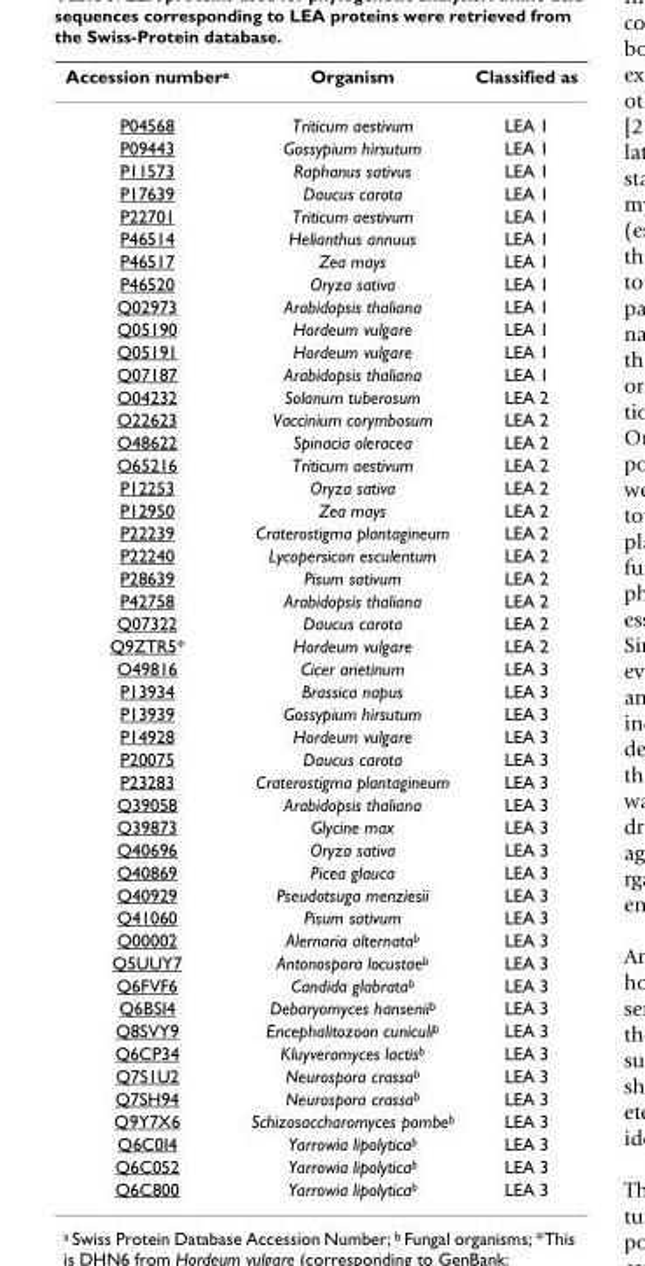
<table><thead><tr><td>Accession numbera</td><td>Organism</td><td>Classified as</td></tr></thead><tbody><tr><td>P04568</td><td>Triticum aestivum</td><td>LEA 1</td></tr><tr><td>P09443</td><td>Gossypium hirsutum</td><td>LEA 1</td></tr><tr><td>P11573</td><td>Raphanus sativus</td><td>LEA 1</td></tr><tr><td>P17639</td><td>Daucus carota</td><td>LEA 1</td></tr><tr><td>P22701</td><td>Triticum aestivum</td><td>LEA 1</td></tr><tr><td>P46514</td><td>Helianthus annuus</td><td>LEA 1</td></tr><tr><td>P46517</td><td>Zea mays</td><td>LEA 1</td></tr><tr><td>P46520</td><td>Oryza sativa</td><td>LEA 1</td></tr><tr><td>Q02973</td><td>Arabidopsis thaliana</td><td>LEA 1</td></tr><tr><td>Q05190</td><td>Hordeum vulgare</td><td>LEA 1</td></tr><tr><td>Q05191</td><td>Hordeum vulgare</td><td>LEA 1</td></tr><tr><td>Q07187</td><td>Arabidopsis thaliana</td><td>LEA 1</td></tr><tr><td>O04232</td><td>Solanum tuberosum</td><td>LEA 2</td></tr><tr><td>O22623</td><td>Vaccinium corymbosum</td><td>LEA 2</td></tr><tr><td>O48622</td><td>Spinacia oleracea</td><td>LEA 2</td></tr><tr><td>O65216</td><td>Triticum aestivum</td><td>LEA 2</td></tr><tr><td>P12253</td><td>Oryza sativa</td><td>LEA 2</td></tr><tr><td>P12950</td><td>Zea mays</td><td>LEA 2</td></tr><tr><td>P22239</td><td>Craterostigma plantagineum</td><td>LEA 2</td></tr><tr><td>P22240</td><td>Lycopersicon esculentum</td><td>LEA 2</td></tr><tr><td>P28639</td><td>Pisum sativum</td><td>LEA 2</td></tr><tr><td>P42758</td><td>Arabidopsis thaliana</td><td>LEA 2</td></tr><tr><td>Q07322</td><td>Daucus carota</td><td>LEA 2</td></tr><tr><td>Q9ZTR5*</td><td>Hordeum vulgare</td><td>LEA 2</td></tr><tr><td>O49816</td><td>Cicer arietinum</td><td>LEA 3</td></tr><tr><td>P13934</td><td>Brassica napus</td><td>LEA 3</td></tr><tr><td>P13939</td><td>Gossypium hirsutum</td><td>LEA 3</td></tr><tr><td>P14928</td><td>Hordeum vulgare</td><td>LEA 3</td></tr><tr><td>P20075</td><td>Daucus carota</td><td>LEA 3</td></tr><tr><td>P23283</td><td>Craterostigma plantagineum</td><td>LEA 3</td></tr><tr><td>Q39058</td><td>Arabidopsis thaliana</td><td>LEA 3</td></tr><tr><td>Q39873</td><td>Glycine max</td><td>LEA 3</td></tr><tr><td>Q40696</td><td>Oryza sativa</td><td>LEA 3</td></tr><tr><td>Q40869</td><td>Picea glauca</td><td>LEA 3</td></tr><tr><td>Q40929</td><td>Pseudotsuga menziesii</td><td>LEA 3</td></tr><tr><td>Q41060</td><td>Pisum sativum</td><td>LEA 3</td></tr><tr><td>Q00002</td><td>Alernaria alternatab</td><td>LEA 3</td></tr><tr><td>Q5UUY7</td><td>Antonospora locustaeb</td><td>LEA 3</td></tr><tr><td>Q6FVF6</td><td>Candida glabratab</td><td>LEA 3</td></tr><tr><td>Q6BSI4</td><td>Debaryomyces hanseniib</td><td>LEA 3</td></tr><tr><td>Q8SVY9</td><td>Encephalitozoon cuniculib</td><td>LEA 3</td></tr><tr><td>Q6CP34</td><td>Kluyveromyces lactisb</td><td>LEA 3</td></tr><tr><td>Q7S1U2</td><td>Neurospora crassab</td><td>LEA 3</td></tr><tr><td>Q7SH94</td><td>Neurospora crassab</td><td>LEA 3</td></tr><tr><td>Q9Y7X6</td><td>Schizosaccharomyces pombeb</td><td>LEA 3</td></tr><tr><td>Q6C0I4</td><td>Yarrowia lipolyticab</td><td>LEA 3</td></tr><tr><td>Q6C052</td><td>Yarrowia lipolyticab</td><td>LEA 3</td></tr><tr><td>Q6C800</td><td>Yarrowia lipolyticab</td><td>LEA 3</td></tr></tbody></table>